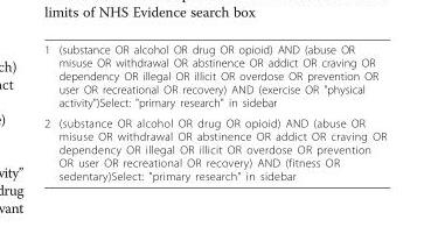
<table><tbody><tr><td>1</td><td>(substance OR alcohol OR drug OR opioid) AND (abuse OR misuse OR withdrawal OR abstinence OR addict OR craving OR dependency OR illegal OR illicit OR overdose OR prevention OR user OR recreational OR recovery) AND (exercise OR &quot;physical activity&quot;)Select: &quot;primary research&quot; in sidebar</td></tr><tr><td>2</td><td>(substance OR alcohol OR drug OR opioid) AND (abuse OR misuse OR withdrawal OR abstinence OR addict OR craving OR dependency OR illegal OR illicit OR overdose OR prevention OR user OR recreational OR recovery) AND (fitness OR sedentary)Select: &quot;primary research&quot; in sidebar</td></tr></tbody></table>